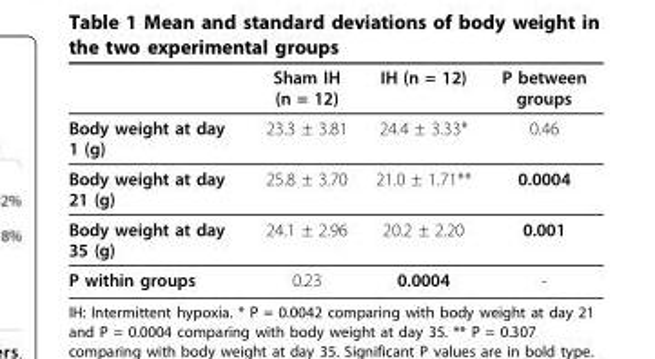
<table><thead><tr><td></td><td>Sham IH (n = 12)</td><td>IH (n = 12)</td><td>P between groups</td></tr></thead><tbody><tr><td>Body weight at day 1 (g)</td><td>23.3 ± 3.81</td><td>24.4 ± 3.33*</td><td>0.46</td></tr><tr><td>Body weight at day 21 (g)</td><td>25.8 ± 3.70</td><td>21.0 ± 1.71**</td><td>0.0004</td></tr><tr><td>Body weight at day 35 (g)</td><td>24.1 ± 2.96</td><td>20.2 ± 2.20</td><td>0.001</td></tr><tr><td>P within groups</td><td>0.23</td><td>0.0004</td><td>-</td></tr></tbody></table>